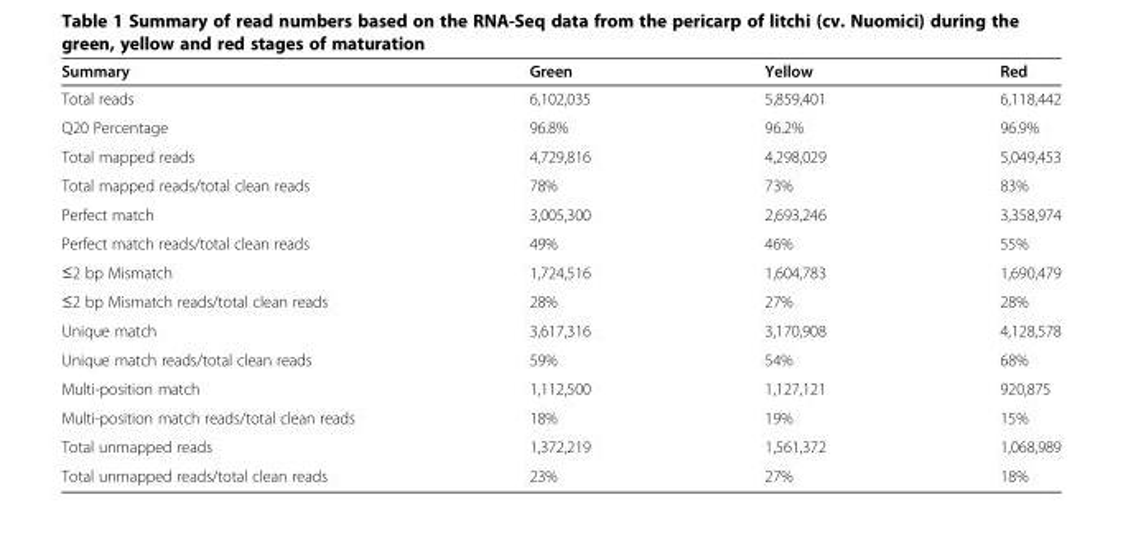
<table><thead><tr><td>Summary</td><td>Green</td><td>Yellow</td><td>Red</td></tr></thead><tbody><tr><td>Total reads</td><td>6,102,035</td><td>5,859,401</td><td>6,118,442</td></tr><tr><td>Q20 Percentage</td><td>96.8%</td><td>96.2%</td><td>96.9%</td></tr><tr><td>Total mapped reads</td><td>4,729,816</td><td>4,298,029</td><td>5,049,453</td></tr><tr><td>Total mapped reads/total clean reads</td><td>78%</td><td>73%</td><td>83%</td></tr><tr><td>Perfect match</td><td>3,005,300</td><td>2,693,246</td><td>3,358,974</td></tr><tr><td>Perfect match reads/total clean reads</td><td>49%</td><td>46%</td><td>55%</td></tr><tr><td>≤2 bp Mismatch</td><td>1,724,516</td><td>1,604,783</td><td>1,690,479</td></tr><tr><td>≤2 bp Mismatch reads/total clean reads</td><td>28%</td><td>27%</td><td>28%</td></tr><tr><td>Unique match</td><td>3,617,316</td><td>3,170,908</td><td>4,128,578</td></tr><tr><td>Unique match reads/total clean reads</td><td>59%</td><td>54%</td><td>68%</td></tr><tr><td>Multi-position match</td><td>1,112,500</td><td>1,127,121</td><td>920,875</td></tr><tr><td>Multi-position match reads/total clean reads</td><td>18%</td><td>19%</td><td>15%</td></tr><tr><td>Total unmapped reads</td><td>1,372,219</td><td>1,561,372</td><td>1,068,989</td></tr><tr><td>Total unmapped reads/total clean reads</td><td>23%</td><td>27%</td><td>18%</td></tr></tbody></table>